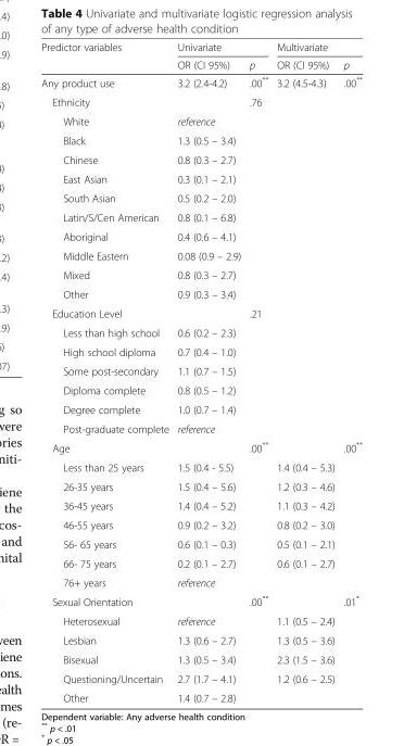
<table><thead><tr><td rowspan="2">Predictor variables</td><td colspan="2">Univariate</td><td colspan="2">Multivariate</td></tr><tr><td>OR (CI 95%)</td><td>p</td><td>OR (CI 95%)</td><td>p</td></tr></thead><tbody><tr><td>Any product use</td><td>3.2 (2.4-4.2)</td><td>.00**</td><td>3.2 (4.5-4.3)</td><td>.00**</td></tr><tr><td>Ethnicity</td><td></td><td>.76</td><td></td><td></td></tr><tr><td>White</td><td>reference</td><td></td><td></td><td></td></tr><tr><td>Black</td><td>1.3 (0.5 – 3.4)</td><td></td><td></td><td></td></tr><tr><td>Chinese</td><td>0.8 (0.3 – 2.7)</td><td></td><td></td><td></td></tr><tr><td>East Asian</td><td>0.3 (0.1 – 2.1)</td><td></td><td></td><td></td></tr><tr><td>South Asian</td><td>0.5 (0.2 – 2.0)</td><td></td><td></td><td></td></tr><tr><td>Latin/S/Cen American</td><td>0.8 (0.1 – 6.8)</td><td></td><td></td><td></td></tr><tr><td>Aboriginal</td><td>0.4 (0.6 – 4.1)</td><td></td><td></td><td></td></tr><tr><td>Middle Eastern</td><td>0.08 (0.9 – 2.9)</td><td></td><td></td><td></td></tr><tr><td>Mixed</td><td>0.8 (0.3 – 2.7)</td><td></td><td></td><td></td></tr><tr><td>Other</td><td>0.9 (0.3 – 3.4)</td><td></td><td></td><td></td></tr><tr><td>Education Level</td><td></td><td>.21</td><td></td><td></td></tr><tr><td>Less than high school</td><td>0.6 (0.2 – 2.3)</td><td></td><td></td><td></td></tr><tr><td>High school diploma</td><td>0.7 (0.4 – 1.0)</td><td></td><td></td><td></td></tr><tr><td>Some post-secondary</td><td>1.1 (0.7 – 1.5)</td><td></td><td></td><td></td></tr><tr><td>Diploma complete</td><td>0.8 (0.5 – 1.2)</td><td></td><td></td><td></td></tr><tr><td>Degree complete</td><td>1.0 (0.7 – 1.4)</td><td></td><td></td><td></td></tr><tr><td>Post-graduate complete</td><td>reference</td><td></td><td></td><td></td></tr><tr><td>Age</td><td></td><td>.00**</td><td></td><td>.00**</td></tr><tr><td>Less than 25 years</td><td>1.5 (0.4 - 5.5)</td><td></td><td>1.4 (0.4 – 5.3)</td><td></td></tr><tr><td>26-35 years</td><td>1.5 (0.4 – 5.6)</td><td></td><td>1.2 (0.3 – 4.6)</td><td></td></tr><tr><td>36-45 years</td><td>1.4 (0.4 – 5.2)</td><td></td><td>1.1 (0.3 – 4.2)</td><td></td></tr><tr><td>46-55 years</td><td>0.9 (0.2 – 3.2)</td><td></td><td>0.8 (0.2 – 3.0)</td><td></td></tr><tr><td>56- 65 years</td><td>0.6 (0.1 – 0.3)</td><td></td><td>0.5 (0.1 – 2.1)</td><td></td></tr><tr><td>66- 75 years</td><td>0.2 (0.1 – 2.7)</td><td></td><td>0.6 (0.1 – 2.7)</td><td></td></tr><tr><td>76+ years</td><td>reference</td><td></td><td></td><td></td></tr><tr><td>Sexual Orientation</td><td></td><td>.00**</td><td></td><td>.01*</td></tr><tr><td>Heterosexual</td><td>reference</td><td></td><td>1.1 (0.5 – 2.4)</td><td></td></tr><tr><td>Lesbian</td><td>1.3 (0.6 – 2.7)</td><td></td><td>1.3 (0.5 – 3.6)</td><td></td></tr><tr><td>Bisexual</td><td>1.3 (0.5 – 3.4)</td><td></td><td>2.3 (1.5 – 3.6)</td><td></td></tr><tr><td>Questioning/Uncertain</td><td>2.7 (1.7 – 4.1)</td><td></td><td>1.2 (0.6 – 2.5)</td><td></td></tr><tr><td>Other</td><td>1.4 (0.7 – 2.8)</td><td></td><td></td><td></td></tr></tbody></table>